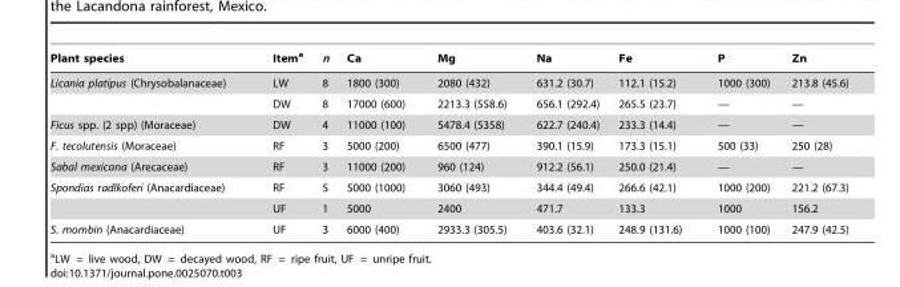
<table><thead><tr><td>Plant species</td><td>Item<sup>a</sup></td><td>n</td><td>Ca</td><td>Mg</td><td>Na</td><td>Fe</td><td>P</td><td>Zn</td></tr></thead><tbody><tr><td rowspan="2">Licania platipus (Chrysobalanaceae)</td><td>LW</td><td>8</td><td>1800 (300)</td><td>2080 (432)</td><td>631.2 (30.7)</td><td>112.1 (15.2)</td><td>1000 (300)</td><td>213.8 (45.6)</td></tr><tr><td>DW</td><td>8</td><td>17000 (600)</td><td>2213.3 (558.6)</td><td>656.1 (292.4)</td><td>265.5 (23.7)</td><td>—</td><td>—</td></tr><tr><td>Ficus spp. (2 spp) (Moraceae)</td><td>DW</td><td>4</td><td>11000 (100)</td><td>5478.4 (5358)</td><td>622.7 (240.4)</td><td>233.3 (14.4)</td><td>—</td><td>—</td></tr><tr><td>F. tecolutensis (Moraceae)</td><td>RF</td><td>3</td><td>5000 (200)</td><td>6500 (477)</td><td>390.1 (15.9)</td><td>173.3 (15.1)</td><td>500 (33)</td><td>250 (28)</td></tr><tr><td>Sabal mexicana (Arecaceae)</td><td>RF</td><td>3</td><td>11000 (200)</td><td>960 (124)</td><td>912.2 (56.1)</td><td>250.0 (21.4)</td><td>—</td><td>—</td></tr><tr><td rowspan="2">Spondias radlkoferi (Anacardiaceae)</td><td>RF</td><td>5</td><td>5000 (1000)</td><td>3060 (493)</td><td>344.4 (49.4)</td><td>266.6 (42.1)</td><td>1000 (200)</td><td>221.2 (67.3)</td></tr><tr><td>UF</td><td>1</td><td>5000</td><td>2400</td><td>471.7</td><td>133.3</td><td>1000</td><td>156.2</td></tr><tr><td>S. mombin (Anacardiaceae)</td><td>UF</td><td>3</td><td>6000 (400)</td><td>2933.3 (305.5)</td><td>403.6 (32.1)</td><td>248.9 (131.6)</td><td>1000 (100)</td><td>247.9 (42.5)</td></tr></tbody></table>